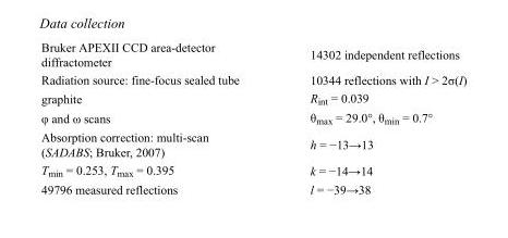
<table><tbody><tr><td>Bruker APEXII CCD area-detector diffractometer</td><td>14302 independent reflections</td></tr><tr><td>Radiation source: fine-focus sealed tube</td><td>10344 reflections with I &gt; 2σ(I)</td></tr><tr><td>graphite</td><td>R<sub>int</sub> = 0.039</td></tr><tr><td>φ and ω scans</td><td>θ<sub>max</sub> = 29.0°, θ<sub>min</sub> = 0.7°</td></tr><tr><td>Absorption correction: multi-scan (SADABS; Bruker, 2007)</td><td>h = −13→13</td></tr><tr><td>T<sub>min</sub> = 0.253, T<sub>max</sub> = 0.395</td><td>k = −14→14</td></tr><tr><td>49796 measured reflections</td><td>l = −39→38</td></tr></tbody></table>